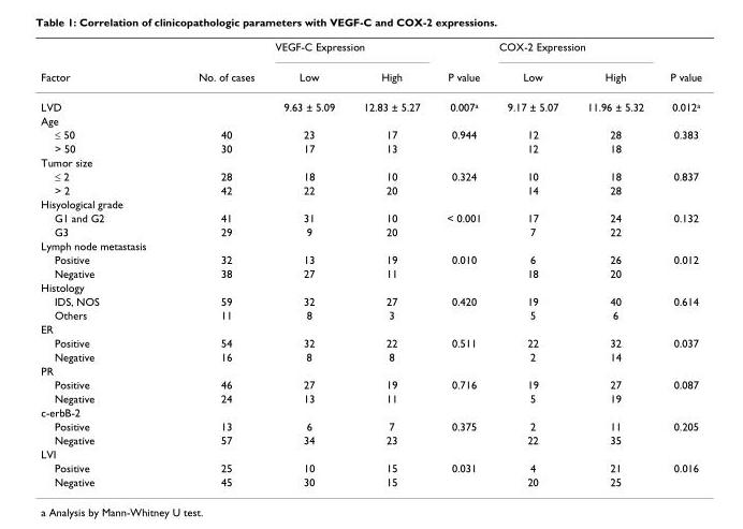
<table><thead><tr><td rowspan="2">Factor</td><td rowspan="2">No. of cases</td><td colspan="2">VEGF-C Expression</td><td rowspan="2">P value</td><td colspan="2">COX-2 Expression</td><td rowspan="2">P value</td></tr><tr><td>Low</td><td>High</td><td>Low</td><td>High</td></tr></thead><tbody><tr><td>LVD</td><td></td><td>9.63 ± 5.09</td><td>12.83 ± 5.27</td><td>0.007<sup>a</sup></td><td>9.17 ± 5.07</td><td>11.96 ± 5.32</td><td>0.012<sup>a</sup></td></tr><tr><td colspan="8">Age</td></tr><tr><td>≤ 50</td><td>40</td><td>23</td><td>17</td><td>0.944</td><td>12</td><td>28</td><td>0.383</td></tr><tr><td>&gt; 50</td><td>30</td><td>17</td><td>13</td><td></td><td>12</td><td>18</td><td></td></tr><tr><td colspan="8">Tumor size</td></tr><tr><td>≤ 2</td><td>28</td><td>18</td><td>10</td><td>0.324</td><td>10</td><td>18</td><td>0.837</td></tr><tr><td>&gt; 2</td><td>42</td><td>22</td><td>20</td><td></td><td>14</td><td>28</td><td></td></tr><tr><td colspan="8">Hisyological grade</td></tr><tr><td>G1 and G2</td><td>41</td><td>31</td><td>10</td><td>&lt; 0.001</td><td>17</td><td>24</td><td>0.132</td></tr><tr><td>G3</td><td>29</td><td>9</td><td>20</td><td></td><td>7</td><td>22</td><td></td></tr><tr><td colspan="8">Lymph node metastasis</td></tr><tr><td>Positive</td><td>32</td><td>13</td><td>19</td><td>0.010</td><td>6</td><td>26</td><td>0.012</td></tr><tr><td>Negative</td><td>38</td><td>27</td><td>11</td><td></td><td>18</td><td>20</td><td></td></tr><tr><td colspan="8">Histology</td></tr><tr><td>IDS, NOS</td><td>59</td><td>32</td><td>27</td><td>0.420</td><td>19</td><td>40</td><td>0.614</td></tr><tr><td>Others</td><td>11</td><td>8</td><td>3</td><td></td><td>5</td><td>6</td><td></td></tr><tr><td colspan="8">ER</td></tr><tr><td>Positive</td><td>54</td><td>32</td><td>22</td><td>0.511</td><td>22</td><td>32</td><td>0.037</td></tr><tr><td>Negative</td><td>16</td><td>8</td><td>8</td><td></td><td>2</td><td>14</td><td></td></tr><tr><td colspan="8">PR</td></tr><tr><td>Positive</td><td>46</td><td>27</td><td>19</td><td>0.716</td><td>19</td><td>27</td><td>0.087</td></tr><tr><td>Negative</td><td>24</td><td>13</td><td>11</td><td></td><td>5</td><td>19</td><td></td></tr><tr><td colspan="8">c-erbB-2</td></tr><tr><td>Positive</td><td>13</td><td>6</td><td>7</td><td>0.375</td><td>2</td><td>11</td><td>0.205</td></tr><tr><td>Negative</td><td>57</td><td>34</td><td>23</td><td></td><td>22</td><td>35</td><td></td></tr><tr><td colspan="8">LVI</td></tr><tr><td>Positive</td><td>25</td><td>10</td><td>15</td><td>0.031</td><td>4</td><td>21</td><td>0.016</td></tr><tr><td>Negative</td><td>45</td><td>30</td><td>15</td><td></td><td>20</td><td>25</td><td></td></tr></tbody></table>